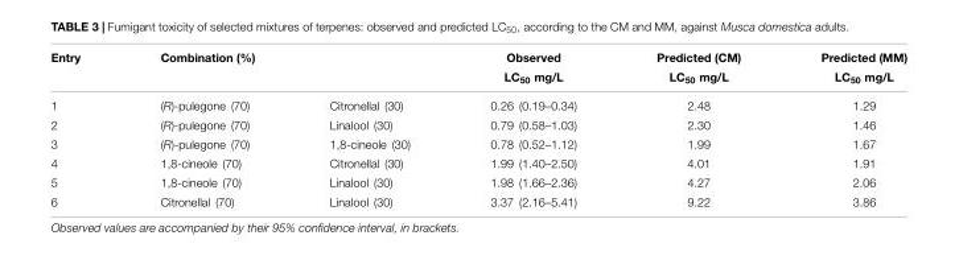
<table><thead><tr><td rowspan="2">Entry 1</td><td colspan="2">Combination (%)</td><td rowspan="2">Observed LC<sub>50</sub> mg/L 0.26 (0.19–0.34)</td><td rowspan="2">Predicted (CM) LC<sub>50</sub> mg/L 2.48</td><td rowspan="2">Predicted (MM) LC<sub>50</sub> mg/L 1.29</td></tr><tr><td>(R)-pulegone (70)</td><td>Citronellal (30)</td></tr></thead><tbody><tr><td>2</td><td>(R)-pulegone (70)</td><td>Linalool (30)</td><td>0.79 (0.58–1.03)</td><td>2.30</td><td>1.46</td></tr><tr><td>3</td><td>(R)-pulegone (70)</td><td>1,8-cineole (30)</td><td>0.78 (0.52–1.12)</td><td>1.99</td><td>1.67</td></tr><tr><td>4</td><td>1,8-cineole (70)</td><td>Citronellal (30)</td><td>1.99 (1.40–2.50)</td><td>4.01</td><td>1.91</td></tr><tr><td>5</td><td>1,8-cineole (70)</td><td>Linalool (30)</td><td>1.98 (1.66–2.36)</td><td>4.27</td><td>2.06</td></tr><tr><td>6</td><td>Citronellal (70)</td><td>Linalool (30)</td><td>3.37 (2.16–5.41)</td><td>9.22</td><td>3.86</td></tr></tbody></table>